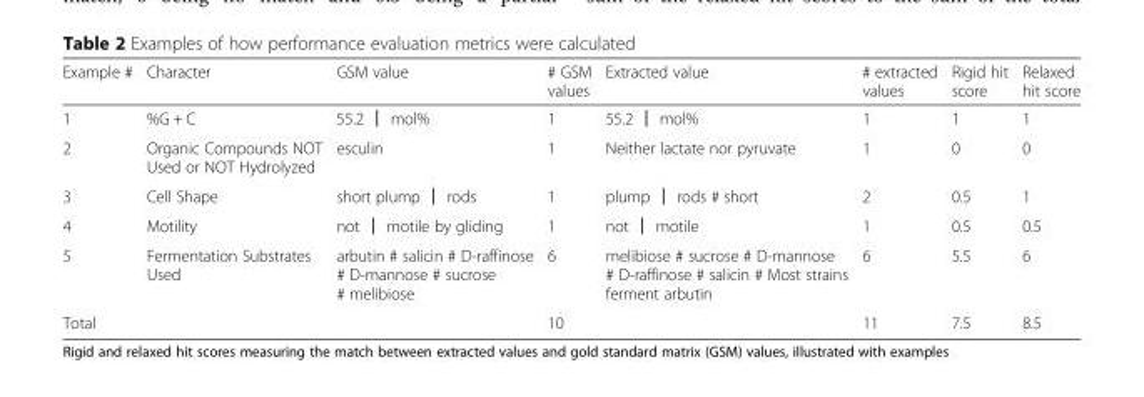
<table><thead><tr><td>Example #</td><td>Character</td><td>GSM value</td><td># GSM values</td><td>Extracted value</td><td># extracted values</td><td>Rigid hit score</td><td>Relaxed hit score</td></tr></thead><tbody><tr><td>1</td><td>%G + C</td><td>55.2 │ mol%</td><td>1</td><td>55.2 │ mol%</td><td>1</td><td>1</td><td>1</td></tr><tr><td>2</td><td>Organic Compounds NOT Used or NOT Hydrolyzed</td><td>esculin</td><td>1</td><td>Neither lactate nor pyruvate</td><td>1</td><td>0</td><td>0</td></tr><tr><td>3</td><td>Cell Shape</td><td>short plump │ rods</td><td>1</td><td>plump │ rods # short</td><td>2</td><td>0.5</td><td>1</td></tr><tr><td>4</td><td>Motility</td><td>not │ motile by gliding</td><td>1</td><td>not │ motile</td><td>1</td><td>0.5</td><td>0.5</td></tr><tr><td>5</td><td>Fermentation Substrates Used</td><td>arbutin # salicin # D-raffinose # D-mannose # sucrose # melibiose</td><td>6</td><td>melibiose # sucrose # D-mannose # D-raffinose # salicin # Most strains ferment arbutin</td><td>6</td><td>5.5</td><td>6</td></tr><tr><td>Total</td><td></td><td></td><td>10</td><td></td><td>11</td><td>7.5</td><td>8.5</td></tr></tbody></table>